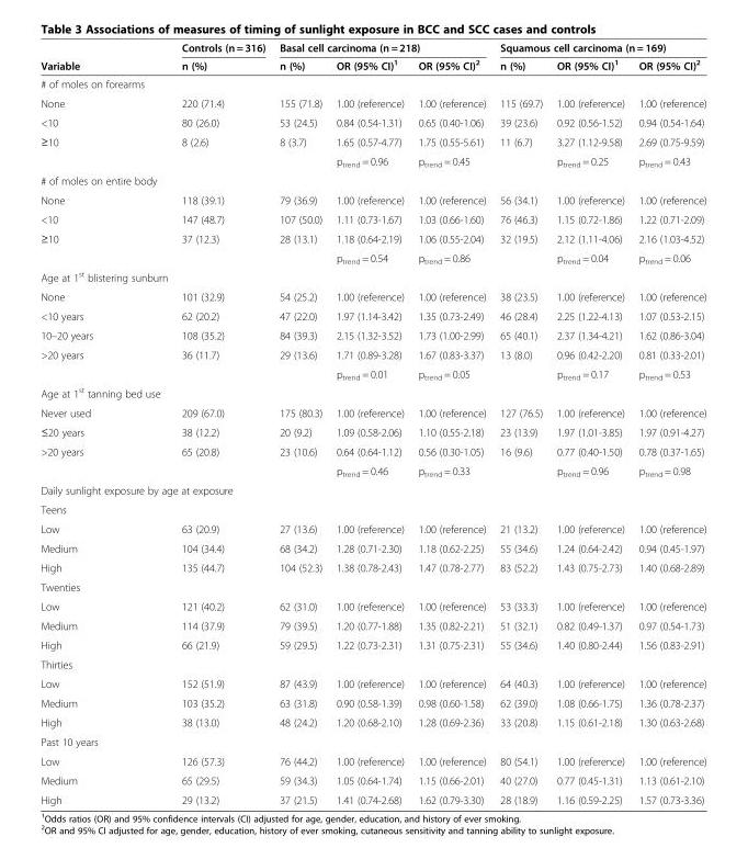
<table><thead><tr><td rowspan="2">Variable</td><td rowspan="2">Controls (n = 316) n (%)</td><td colspan="3">Basal cell carcinoma (n = 218)</td><td colspan="3">Squamous cell carcinoma (n = 169)</td></tr><tr><td>n (%)</td><td>OR (95% CI)<sup>1</sup></td><td>OR (95% CI)<sup>2</sup></td><td>n (%)</td><td>OR (95% CI)<sup>1</sup></td><td>OR (95% CI)<sup>2</sup></td></tr></thead><tbody><tr><td colspan="8"># of moles on forearms</td></tr><tr><td>None</td><td>220 (71.4)</td><td>155 (71.8)</td><td>1.00 (reference)</td><td>1.00 (reference)</td><td>115 (69.7)</td><td>1.00 (reference)</td><td>1.00 (reference)</td></tr><tr><td>&lt;10</td><td>80 (26.0)</td><td>53 (24.5)</td><td>0.84 (0.54-1.31)</td><td>0.65 (0.40-1.06)</td><td>39 (23.6)</td><td>0.92 (0.56-1.52)</td><td>0.94 (0.54-1.64)</td></tr><tr><td rowspan="2">≥10</td><td>8 (2.6)</td><td>8 (3.7)</td><td>1.65 (0.57-4.77)</td><td>1.75 (0.55-5.61)</td><td>11 (6.7)</td><td>3.27 (1.12-9.58)</td><td>2.69 (0.75-9.59)</td></tr><tr><td></td><td></td><td>p<sub>trend</sub> = 0.96</td><td>p<sub>trend</sub> = 0.45</td><td></td><td>p<sub>trend</sub> = 0.25</td><td>p<sub>trend</sub> = 0.43</td></tr><tr><td colspan="8"># of moles on entire body</td></tr><tr><td>None</td><td>118 (39.1)</td><td>79 (36.9)</td><td>1.00 (reference)</td><td>1.00 (reference)</td><td>56 (34.1)</td><td>1.00 (reference)</td><td>1.00 (reference)</td></tr><tr><td>&lt;10</td><td>147 (48.7)</td><td>107 (50.0)</td><td>1.11 (0.73-1.67)</td><td>1.03 (0.66-1.60)</td><td>76 (46.3)</td><td>1.15 (0.72-1.86)</td><td>1.22 (0.71-2.09)</td></tr><tr><td rowspan="2">≥10</td><td>37 (12.3)</td><td>28 (13.1)</td><td>1.18 (0.64-2.19)</td><td>1.06 (0.55-2.04)</td><td>32 (19.5)</td><td>2.12 (1.11-4.06)</td><td>2.16 (1.03-4.52)</td></tr><tr><td></td><td></td><td>p<sub>trend</sub> = 0.54</td><td>p<sub>trend</sub> = 0.86</td><td></td><td>p<sub>trend</sub> = 0.04</td><td>p<sub>trend</sub> = 0.06</td></tr><tr><td colspan="8">Age at 1<sup>st</sup> blistering sunburn</td></tr><tr><td>None</td><td>101 (32.9)</td><td>54 (25.2)</td><td>1.00 (reference)</td><td>1.00 (reference)</td><td>38 (23.5)</td><td>1.00 (reference)</td><td>1.00 (reference)</td></tr><tr><td>&lt;10 years</td><td>62 (20.2)</td><td>47 (22.0)</td><td>1.97 (1.14-3.42)</td><td>1.35 (0.73-2.49)</td><td>46 (28.4)</td><td>2.25 (1.22-4.13)</td><td>1.07 (0.53-2.15)</td></tr><tr><td>10–20 years</td><td>108 (35.2)</td><td>84 (39.3)</td><td>2.15 (1.32-3.52)</td><td>1.73 (1.00-2.99)</td><td>65 (40.1)</td><td>2.37 (1.34-4.21)</td><td>1.62 (0.86-3.04)</td></tr><tr><td rowspan="2">&gt;20 years</td><td>36 (11.7)</td><td>29 (13.6)</td><td>1.71 (0.89-3.28)</td><td>1.67 (0.83-3.37)</td><td>13 (8.0)</td><td>0.96 (0.42-2.20)</td><td>0.81 (0.33-2.01)</td></tr><tr><td></td><td></td><td>p<sub>trend</sub> = 0.01</td><td>p<sub>trend</sub> = 0.05</td><td></td><td>p<sub>trend</sub> = 0.17</td><td>p<sub>trend</sub> = 0.53</td></tr><tr><td colspan="8">Age at 1<sup>st</sup> tanning bed use</td></tr><tr><td>Never used</td><td>209 (67.0)</td><td>175 (80.3)</td><td>1.00 (reference)</td><td>1.00 (reference)</td><td>127 (76.5)</td><td>1.00 (reference)</td><td>1.00 (reference)</td></tr><tr><td>≤20 years</td><td>38 (12.2)</td><td>20 (9.2)</td><td>1.09 (0.58-2.06)</td><td>1.10 (0.55-2.18)</td><td>23 (13.9)</td><td>1.97 (1.01-3.85)</td><td>1.97 (0.91-4.27)</td></tr><tr><td rowspan="2">&gt;20 years</td><td>65 (20.8)</td><td>23 (10.6)</td><td>0.64 (0.64-1.12)</td><td>0.56 (0.30-1.05)</td><td>16 (9.6)</td><td>0.77 (0.40-1.50)</td><td>0.78 (0.37-1.65)</td></tr><tr><td></td><td></td><td>p<sub>trend</sub> = 0.46</td><td>p<sub>trend</sub> = 0.33</td><td></td><td>p<sub>trend</sub> = 0.96</td><td>p<sub>trend</sub> = 0.98</td></tr><tr><td colspan="8">Daily sunlight exposure by age at exposure</td></tr><tr><td colspan="8">Teens</td></tr><tr><td>Low</td><td>63 (20.9)</td><td>27 (13.6)</td><td>1.00 (reference)</td><td>1.00 (reference)</td><td>21 (13.2)</td><td>1.00 (reference)</td><td>1.00 (reference)</td></tr><tr><td>Medium</td><td>104 (34.4)</td><td>68 (34.2)</td><td>1.28 (0.71-2.30)</td><td>1.18 (0.62-2.25)</td><td>55 (34.6)</td><td>1.24 (0.64-2.42)</td><td>0.94 (0.45-1.97)</td></tr><tr><td>High</td><td>135 (44.7)</td><td>104 (52.3)</td><td>1.38 (0.78-2.43)</td><td>1.47 (0.78-2.77)</td><td>83 (52.2)</td><td>1.43 (0.75-2.73)</td><td>1.40 (0.68-2.89)</td></tr><tr><td colspan="8">Twenties</td></tr><tr><td>Low</td><td>121 (40.2)</td><td>62 (31.0)</td><td>1.00 (reference)</td><td>1.00 (reference)</td><td>53 (33.3)</td><td>1.00 (reference)</td><td>1.00 (reference)</td></tr><tr><td>Medium</td><td>114 (37.9)</td><td>79 (39.5)</td><td>1.20 (0.77-1.88)</td><td>1.35 (0.82-2.21)</td><td>51 (32.1)</td><td>0.82 (0.49-1.37)</td><td>0.97 (0.54-1.73)</td></tr><tr><td>High</td><td>66 (21.9)</td><td>59 (29.5)</td><td>1.22 (0.73-2.31)</td><td>1.31 (0.75-2.31)</td><td>55 (34.6)</td><td>1.40 (0.80-2.44)</td><td>1.56 (0.83-2.91)</td></tr><tr><td colspan="8">Thirties</td></tr><tr><td>Low</td><td>152 (51.9)</td><td>87 (43.9)</td><td>1.00 (reference)</td><td>1.00 (reference)</td><td>64 (40.3)</td><td>1.00 (reference)</td><td>1.00 (reference)</td></tr><tr><td>Medium</td><td>103 (35.2)</td><td>63 (31.8)</td><td>0.90 (0.58-1.39)</td><td>0.98 (0.60-1.58)</td><td>62 (39.0)</td><td>1.08 (0.66-1.75)</td><td>1.36 (0.78-2.37)</td></tr><tr><td>High</td><td>38 (13.0)</td><td>48 (24.2)</td><td>1.20 (0.68-2.10)</td><td>1.28 (0.69-2.36)</td><td>33 (20.8)</td><td>1.15 (0.61-2.18)</td><td>1.30 (0.63-2.68)</td></tr><tr><td colspan="8">Past 10 years</td></tr><tr><td>Low</td><td>126 (57.3)</td><td>76 (44.2)</td><td>1.00 (reference)</td><td>1.00 (reference)</td><td>80 (54.1)</td><td>1.00 (reference)</td><td>1.00 (reference)</td></tr><tr><td>Medium</td><td>65 (29.5)</td><td>59 (34.3)</td><td>1.05 (0.64-1.74)</td><td>1.15 (0.66-2.01)</td><td>40 (27.0)</td><td>0.77 (0.45-1.31)</td><td>1.13 (0.61-2.10)</td></tr><tr><td>High</td><td>29 (13.2)</td><td>37 (21.5)</td><td>1.41 (0.74-2.68)</td><td>1.62 (0.79-3.30)</td><td>28 (18.9)</td><td>1.16 (0.59-2.25)</td><td>1.57 (0.73-3.36)</td></tr></tbody></table>